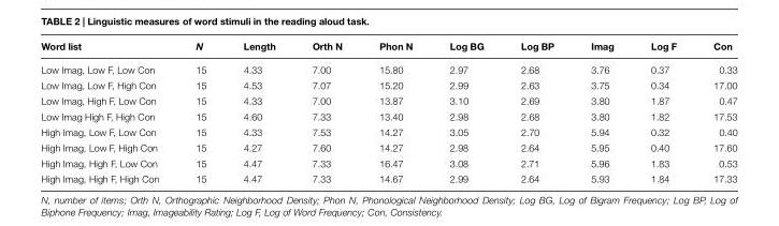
<table><thead><tr><td>Word list</td><td>N</td><td>Length</td><td>Orth N</td><td>Phon N</td><td>Log BG</td><td>Log BP</td><td>Imag</td><td>Log F</td><td>Con</td></tr></thead><tbody><tr><td>Low Imag, Low F, Low Con</td><td>15</td><td>4.33</td><td>7.00</td><td>15.80</td><td>2.97</td><td>2.68</td><td>3.76</td><td>0.37</td><td>0.33</td></tr><tr><td>Low Imag, Low F, High Con</td><td>15</td><td>4.53</td><td>7.07</td><td>15.20</td><td>2.99</td><td>2.63</td><td>3.75</td><td>0.34</td><td>17.00</td></tr><tr><td>Low Imag, High F, Low Con</td><td>15</td><td>4.33</td><td>7.00</td><td>13.87</td><td>3.10</td><td>2.69</td><td>3.80</td><td>1.87</td><td>0.47</td></tr><tr><td>Low Imag High F, High Con</td><td>15</td><td>4.60</td><td>7.33</td><td>13.40</td><td>2.98</td><td>2.68</td><td>3.80</td><td>1.82</td><td>17.53</td></tr><tr><td>High Imag, Low F, Low Con</td><td>15</td><td>4.33</td><td>7.53</td><td>14.27</td><td>3.05</td><td>2.70</td><td>5.94</td><td>0.32</td><td>0.40</td></tr><tr><td>High Imag, Low F, High Con</td><td>15</td><td>4.27</td><td>7.60</td><td>14.27</td><td>2.98</td><td>2.64</td><td>5.95</td><td>0.40</td><td>17.60</td></tr><tr><td>High Imag, High F, Low Con</td><td>15</td><td>4.47</td><td>7.33</td><td>16.47</td><td>3.08</td><td>2.71</td><td>5.96</td><td>1.83</td><td>0.53</td></tr><tr><td>High Imag, High F, High Con</td><td>15</td><td>4.47</td><td>7.33</td><td>14.67</td><td>2.99</td><td>2.64</td><td>5.93</td><td>1.84</td><td>17.33</td></tr></tbody></table>